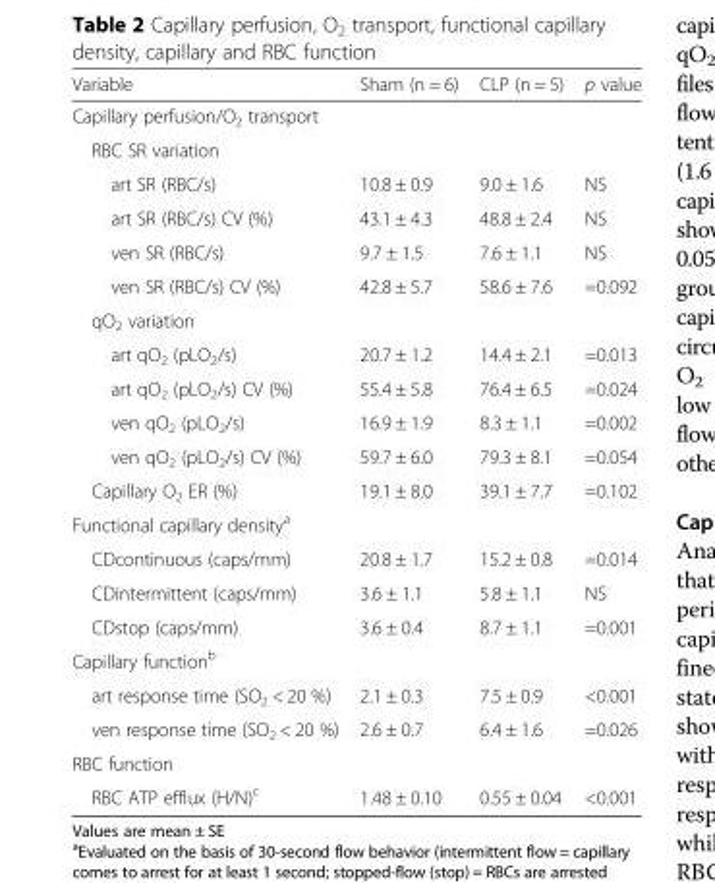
<table><thead><tr><td>Variable</td><td>Sham (n = 6)</td><td>CLP (n = 5)</td><td>p value</td></tr></thead><tbody><tr><td colspan="4">Capillary perfusion/O<sub>2</sub> transport</td></tr><tr><td colspan="4">RBC SR variation</td></tr><tr><td>art SR (RBC/s)</td><td>10.8 ± 0.9</td><td>9.0 ± 1.6</td><td>NS</td></tr><tr><td>art SR (RBC/s) CV (%)</td><td>43.1 ± 4.3</td><td>48.8 ± 2.4</td><td>NS</td></tr><tr><td>ven SR (RBC/s)</td><td>9.7 ± 1.5</td><td>7.6 ± 1.1</td><td>NS</td></tr><tr><td>ven SR (RBC/s) CV (%)</td><td>42.8 ± 5.7</td><td>58.6 ± 7.6</td><td>=0.092</td></tr><tr><td colspan="4">qO<sub>2</sub> variation</td></tr><tr><td>art qO<sub>2</sub> (pLO<sub>2</sub>/s)</td><td>20.7 ± 1.2</td><td>14.4 ± 2.1</td><td>=0.013</td></tr><tr><td>art qO<sub>2</sub> (pLO<sub>2</sub>/s) CV (%)</td><td>55.4 ± 5.8</td><td>76.4 ± 6.5</td><td>=0.024</td></tr><tr><td>ven qO<sub>2</sub> (pLO<sub>2</sub>/s)</td><td>16.9 ± 1.9</td><td>8.3 ± 1.1</td><td>=0.002</td></tr><tr><td>ven qO<sub>2</sub> (pLO<sub>2</sub>/s) CV (%)</td><td>59.7 ± 6.0</td><td>79.3 ± 8.1</td><td>=0.054</td></tr><tr><td>Capillary O<sub>2</sub> ER (%)</td><td>19.1 ± 8.0</td><td>39.1 ± 7.7</td><td>=0.102</td></tr><tr><td colspan="4">Functional capillary density<sup>a</sup></td></tr><tr><td>CDcontinuous (caps/mm)</td><td>20.8 ± 1.7</td><td>15.2 ± 0.8</td><td>=0.014</td></tr><tr><td>CDintermittent (caps/mm)</td><td>3.6 ± 1.1</td><td>5.8 ± 1.1</td><td>NS</td></tr><tr><td>CDstop (caps/mm)</td><td>3.6 ± 0.4</td><td>8.7 ± 1.1</td><td>=0.001</td></tr><tr><td colspan="4">Capillary function<sup>b</sup></td></tr><tr><td>art response time (SO<sub>2</sub> &lt; 20 %)</td><td>2.1 ± 0.3</td><td>7.5 ± 0.9</td><td>&lt;0.001</td></tr><tr><td>ven response time (SO<sub>2</sub> &lt; 20 %)</td><td>2.6 ± 0.7</td><td>6.4 ± 1.6</td><td>=0.026</td></tr><tr><td colspan="4">RBC function</td></tr><tr><td>RBC ATP efflux (H/N)<sup>c</sup></td><td>1.48 ± 0.10</td><td>0.55 ± 0.04</td><td>&lt;0.001</td></tr></tbody></table>